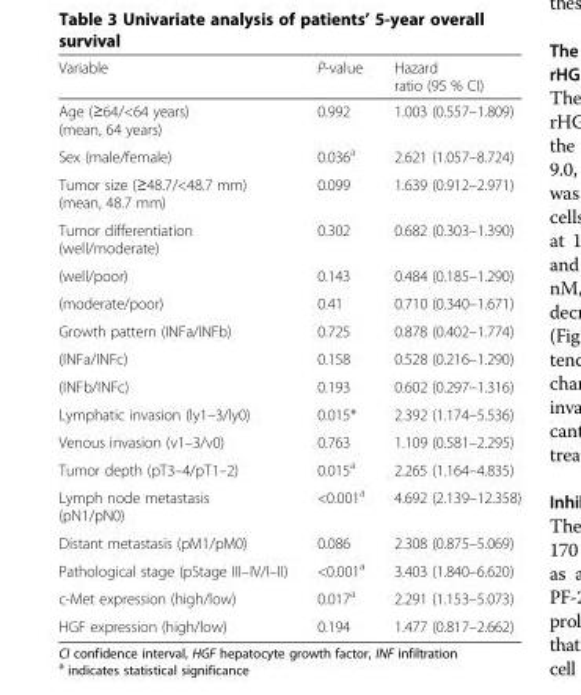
<table><thead><tr><td>Variable</td><td>P-value</td><td>Hazard ratio (95 % CI)</td></tr></thead><tbody><tr><td>Age (≥64/&lt;64 years) (mean, 64 years)</td><td>0.992</td><td>1.003 (0.557–1.809)</td></tr><tr><td>Sex (male/female)</td><td>0.036<sup>a</sup></td><td>2.621 (1.057–8.724)</td></tr><tr><td>Tumor size (≥48.7/&lt;48.7 mm) (mean, 48.7 mm)</td><td>0.099</td><td>1.639 (0.912–2.971)</td></tr><tr><td>Tumor differentiation (well/moderate)</td><td>0.302</td><td>0.682 (0.303–1.390)</td></tr><tr><td>(well/poor)</td><td>0.143</td><td>0.484 (0.185–1.290)</td></tr><tr><td>(moderate/poor)</td><td>0.41</td><td>0.710 (0.340–1.671)</td></tr><tr><td>Growth pattern (INFa/INFb)</td><td>0.725</td><td>0.878 (0.402–1.774)</td></tr><tr><td>(INFa/INFc)</td><td>0.158</td><td>0.528 (0.216–1.290)</td></tr><tr><td>(INFb/INFc)</td><td>0.193</td><td>0.602 (0.297–1.316)</td></tr><tr><td>Lymphatic invasion (ly1–3/ly0)</td><td>0.015*</td><td>2.392 (1.174–5.536)</td></tr><tr><td>Venous invasion (v1–3/v0)</td><td>0.763</td><td>1.109 (0.581–2.295)</td></tr><tr><td>Tumor depth (pT3–4/pT1–2)</td><td>0.015<sup>a</sup></td><td>2.265 (1.164–4.835)</td></tr><tr><td>Lymph node metastasis (pN1/pN0)</td><td>&lt;0.001<sup>a</sup></td><td>4.692 (2.139–12.358)</td></tr><tr><td>Distant metastasis (pM1/pM0)</td><td>0.086</td><td>2.308 (0.875–5.069)</td></tr><tr><td>Pathological stage (pStage III–IV/I–II)</td><td>&lt;0.001<sup>a</sup></td><td>3.403 (1.840–6.620)</td></tr><tr><td>c-Met expression (high/low)</td><td>0.017<sup>a</sup></td><td>2.291 (1.153–5.073)</td></tr><tr><td>HGF expression (high/low)</td><td>0.194</td><td>1.477 (0.817–2.662)</td></tr></tbody></table>